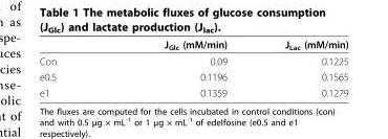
<table><thead><tr><td></td><td>J<sub>Glc</sub> (mM/min)</td><td>J<sub>Lac</sub> (mM/min)</td></tr></thead><tbody><tr><td>Con</td><td>0.09</td><td>0.1225</td></tr><tr><td>e0.5</td><td>0.1196</td><td>0.1565</td></tr><tr><td>e1</td><td>0.1359</td><td>0.1279</td></tr></tbody></table>